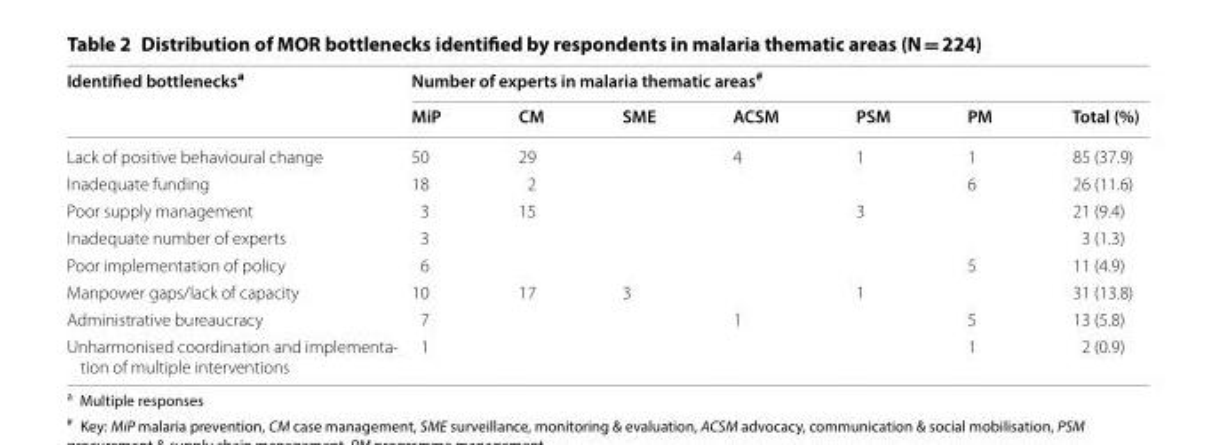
<table><thead><tr><td rowspan="2">Identified bottlenecks<sup>a</sup></td><td colspan="7">Number of experts in malaria thematic areas<sup>#</sup></td></tr><tr><td>MiP</td><td>CM</td><td>SME</td><td>ACSM</td><td>PSM</td><td>PM</td><td>Total (%)</td></tr></thead><tbody><tr><td>Lack of positive behavioural change</td><td>50</td><td>29</td><td></td><td>4</td><td>1</td><td>1</td><td>85 (37.9)</td></tr><tr><td>Inadequate funding</td><td>18</td><td>2</td><td></td><td></td><td></td><td>6</td><td>26 (11.6)</td></tr><tr><td>Poor supply management</td><td>3</td><td>15</td><td></td><td></td><td>3</td><td></td><td>21 (9.4)</td></tr><tr><td>Inadequate number of experts</td><td>3</td><td></td><td></td><td></td><td></td><td></td><td>3 (1.3)</td></tr><tr><td>Poor implementation of policy</td><td>6</td><td></td><td></td><td></td><td></td><td>5</td><td>11 (4.9)</td></tr><tr><td>Manpower gaps/lack of capacity</td><td>10</td><td>17</td><td>3</td><td></td><td>1</td><td></td><td>31 (13.8)</td></tr><tr><td>Administrative bureaucracy</td><td>7</td><td></td><td></td><td>1</td><td></td><td>5</td><td>13 (5.8)</td></tr><tr><td>Unharmonised coordination and implementa‑ tion of multiple interventions</td><td>1</td><td></td><td></td><td></td><td></td><td>1</td><td>2 (0.9)</td></tr></tbody></table>